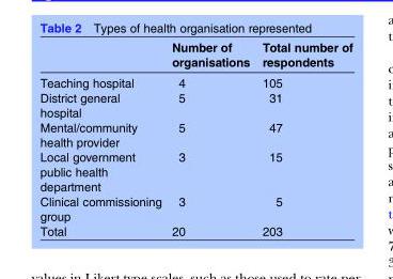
<table><thead><tr><td></td><td>Number of organisations</td><td>Total number of respondents</td></tr></thead><tbody><tr><td>Teaching hospital</td><td>4</td><td>105</td></tr><tr><td>District general hospital</td><td>5</td><td>31</td></tr><tr><td>Mental/community health provider</td><td>5</td><td>47</td></tr><tr><td>Local government public health department</td><td>3</td><td>15</td></tr><tr><td>Clinical commissioning group</td><td>3</td><td>5</td></tr><tr><td>Total</td><td>20</td><td>203</td></tr></tbody></table>